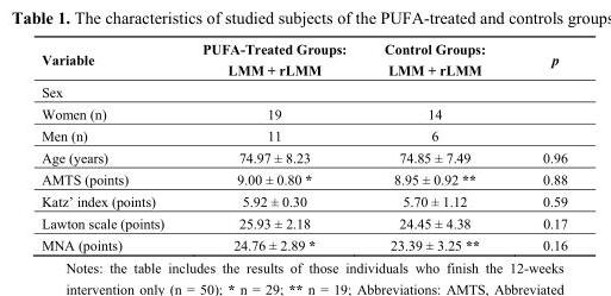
<table><thead><tr><td>Variable</td><td>PUFA-Treated Groups: LMM + rLMM</td><td>Control Groups: LMM + rLMM</td><td>p</td></tr></thead><tbody><tr><td colspan="4">Sex</td></tr><tr><td>Women (n)</td><td>19</td><td>14</td><td></td></tr><tr><td>Men (n)</td><td>11</td><td>6</td><td></td></tr><tr><td>Age (years)</td><td>74.97 ± 8.23</td><td>74.85 ± 7.49</td><td>0.96</td></tr><tr><td>AMTS (points)</td><td>9.00 ± 0.80 *</td><td>8.95 ± 0.92 **</td><td>0.88</td></tr><tr><td>Katz’ index (points)</td><td>5.92 ± 0.30</td><td>5.70 ± 1.12</td><td>0.59</td></tr><tr><td>Lawton scale (points)</td><td>25.93 ± 2.18</td><td>24.45 ± 4.38</td><td>0.17</td></tr><tr><td>MNA (points)</td><td>24.76 ± 2.89 *</td><td>23.39 ± 3.25 **</td><td>0.16</td></tr></tbody></table>